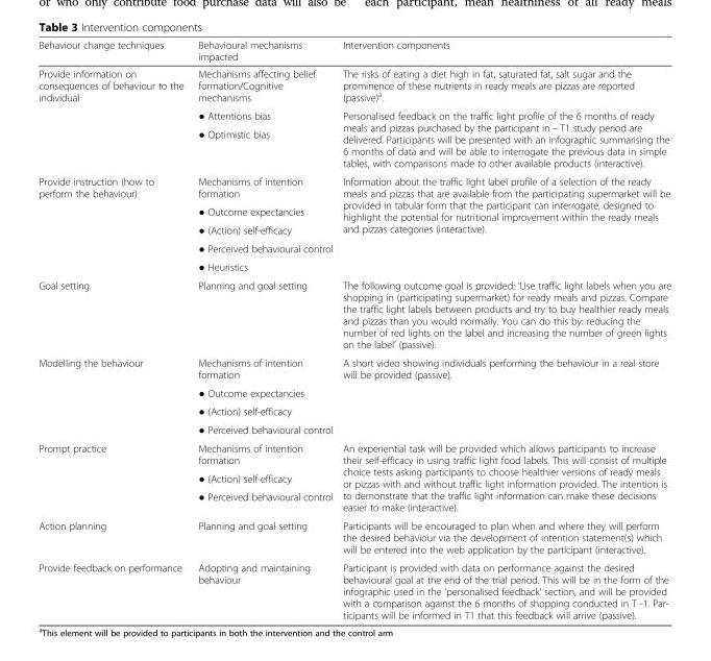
<table><thead><tr><td>Behaviour change techniques</td><td>Behavioural mechanisms impacted</td><td>Intervention components</td></tr></thead><tbody><tr><td rowspan="3">Provide information on consequences of behaviour to the individual</td><td>Mechanisms affecting belief formation/Cognitive mechanisms</td><td>The risks of eating a diet high in fat, saturated fat, salt sugar and the prominence of these nutrients in ready meals are pizzas are reported (passive)<sup>a</sup>.</td></tr><tr><td>● Attentions bias</td><td rowspan="2">Personalised feedback on the traffic light profile of the 6 months of ready meals and pizzas purchased by the participant in − T1 study period are delivered. Participants will be presented with an infographic summarising the 6 months of data and will be able to interrogate the previous data in simple tables, with comparisons made to other available products (interactive).</td></tr><tr><td>● Optimistic bias</td></tr><tr><td rowspan="5">Provide instruction (how to perform the behaviour)</td><td>Mechanisms of intention formation</td><td rowspan="5">Information about the traffic light label profile of a selection of the ready meals and pizzas that are available from the participating supermarket will be provided in tabular form that the participant can interrogate, designed to highlight the potential for nutritional improvement within the ready meals and pizzas categories (interactive).</td></tr><tr><td>● Outcome expectancies</td></tr><tr><td>● (Action) self-efficacy</td></tr><tr><td>● Perceived behavioural control</td></tr><tr><td>● Heuristics</td></tr><tr><td>Goal setting</td><td>Planning and goal setting</td><td>The following outcome goal is provided: ‘Use traffic light labels when you are shopping in (participating supermarket) for ready meals and pizzas. Compare the traffic light labels between products and try to buy healthier ready meals and pizzas than you would normally. You can do this by: reducing the number of red lights on the label and increasing the number of green lights on the label’ (passive).</td></tr><tr><td rowspan="4">Modelling the behaviour</td><td>Mechanisms of intention formation</td><td rowspan="4">A short video showing individuals performing the behaviour in a real store will be provided (passive).</td></tr><tr><td>● Outcome expectancies</td></tr><tr><td>● (Action) self-efficacy</td></tr><tr><td>● Perceived behavioural control</td></tr><tr><td rowspan="3">Prompt practice</td><td>Mechanisms of intention formation</td><td rowspan="3">An experiential task will be provided which allows participants to increase their self-efficacy in using traffic light food labels. This will consist of multiple choice tests asking participants to choose healthier versions of ready meals or pizzas with and without traffic light information provided. The intention is to demonstrate that the traffic light information can make these decisions easier to make (interactive).</td></tr><tr><td>● (Action) self-efficacy</td></tr><tr><td>● Perceived behavioural control</td></tr><tr><td>Action planning</td><td>Planning and goal setting</td><td>Participants will be encouraged to plan when and where they will perform the desired behaviour via the development of intention statement(s) which will be entered into the web application by the participant (interactive).</td></tr><tr><td>Provide feedback on performance</td><td>Adopting and maintaining behaviour</td><td>Participant is provided with data on performance against the desired behavioural goal at the end of the trial period. This will be in the form of the infographic used in the ‘personalised feedback’ section, and will be provided with a comparison against the 6 months of shopping conducted in T -1. Par- ticipants will be informed in T1 that this feedback will arrive (passive).</td></tr></tbody></table>